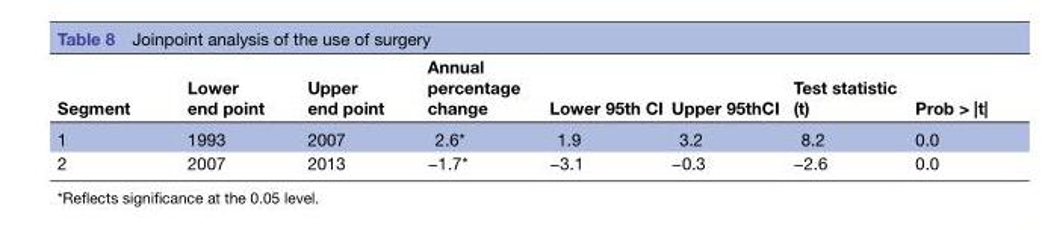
<table><thead><tr><td>Segment</td><td>Lower end point</td><td>Upper end point</td><td>Annual percentage change</td><td>Lower 95th CI</td><td>Upper 95thCI</td><td>Test statistic (t)</td><td>Prob &gt; |t|</td></tr></thead><tbody><tr><td>1</td><td>1993</td><td>2007</td><td>2.6*</td><td>1.9</td><td>3.2</td><td>8.2</td><td>0.0</td></tr><tr><td>2</td><td>2007</td><td>2013</td><td>−1.7*</td><td>−3.1</td><td>−0.3</td><td>−2.6</td><td>0.0</td></tr></tbody></table>